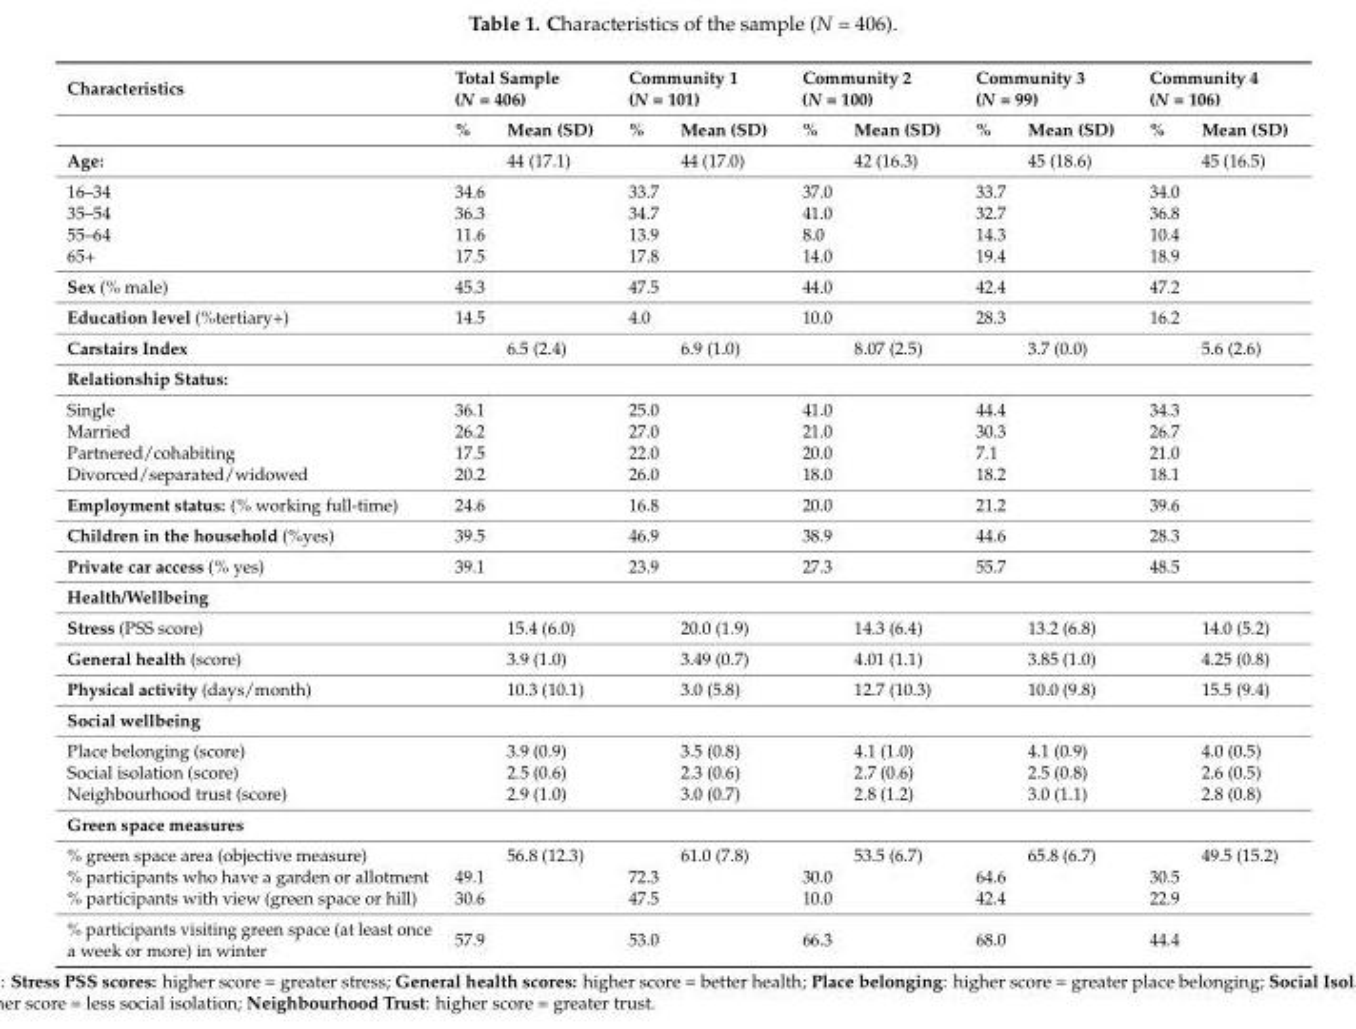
<table><thead><tr><td rowspan="2">Characteristics</td><td colspan="2">Total Sample (N = 406)</td><td colspan="2">Community 1 (N = 101)</td><td colspan="2">Community 2 (N = 100)</td><td colspan="2">Community 3 (N = 99)</td><td colspan="2">Community 4 (N = 106)</td></tr><tr><td>%</td><td>Mean (SD)</td><td>%</td><td>Mean (SD)</td><td>%</td><td>Mean (SD)</td><td>%</td><td>Mean (SD)</td><td>%</td><td>Mean (SD)</td></tr></thead><tbody><tr><td>Age:</td><td></td><td>44 (17.1)</td><td></td><td>44 (17.0)</td><td></td><td>42 (16.3)</td><td></td><td>45 (18.6)</td><td></td><td>45 (16.5)</td></tr><tr><td>16–34</td><td>34.6</td><td></td><td>33.7</td><td></td><td>37.0</td><td></td><td>33.7</td><td></td><td>34.0</td><td></td></tr><tr><td>35–54</td><td>36.3</td><td></td><td>34.7</td><td></td><td>41.0</td><td></td><td>32.7</td><td></td><td>36.8</td><td></td></tr><tr><td>55–64</td><td>11.6</td><td></td><td>13.9</td><td></td><td>8.0</td><td></td><td>14.3</td><td></td><td>10.4</td><td></td></tr><tr><td>65+</td><td>17.5</td><td></td><td>17.8</td><td></td><td>14.0</td><td></td><td>19.4</td><td></td><td>18.9</td><td></td></tr><tr><td>Sex (% male)</td><td>45.3</td><td></td><td>47.5</td><td></td><td>44.0</td><td></td><td>42.4</td><td></td><td>47.2</td><td></td></tr><tr><td>Education level (%tertiary+)</td><td>14.5</td><td></td><td>4.0</td><td></td><td>10.0</td><td></td><td>28.3</td><td></td><td>16.2</td><td></td></tr><tr><td>Carstairs Index</td><td></td><td>6.5 (2.4)</td><td></td><td>6.9 (1.0)</td><td></td><td>8.07 (2.5)</td><td></td><td>3.7 (0.0)</td><td></td><td>5.6 (2.6)</td></tr><tr><td colspan="11">Relationship Status:</td></tr><tr><td>Single</td><td>36.1</td><td></td><td>25.0</td><td></td><td>41.0</td><td></td><td>44.4</td><td></td><td>34.3</td><td></td></tr><tr><td>Married</td><td>26.2</td><td></td><td>27.0</td><td></td><td>21.0</td><td></td><td>30.3</td><td></td><td>26.7</td><td></td></tr><tr><td>Partnered/cohabiting</td><td>17.5</td><td></td><td>22.0</td><td></td><td>20.0</td><td></td><td>7.1</td><td></td><td>21.0</td><td></td></tr><tr><td>Divorced/separated/widowed</td><td>20.2</td><td></td><td>26.0</td><td></td><td>18.0</td><td></td><td>18.2</td><td></td><td>18.1</td><td></td></tr><tr><td>Employment status: (% working full-time)</td><td>24.6</td><td></td><td>16.8</td><td></td><td>20.0</td><td></td><td>21.2</td><td></td><td>39.6</td><td></td></tr><tr><td>Children in the household (%yes)</td><td>39.5</td><td></td><td>46.9</td><td></td><td>38.9</td><td></td><td>44.6</td><td></td><td>28.3</td><td></td></tr><tr><td>Private car access (% yes)</td><td>39.1</td><td></td><td>23.9</td><td></td><td>27.3</td><td></td><td>55.7</td><td></td><td>48.5</td><td></td></tr><tr><td colspan="11">Health/Wellbeing</td></tr><tr><td>Stress (PSS score)</td><td></td><td>15.4 (6.0)</td><td></td><td>20.0 (1.9)</td><td></td><td>14.3 (6.4)</td><td></td><td>13.2 (6.8)</td><td></td><td>14.0 (5.2)</td></tr><tr><td>General health (score)</td><td></td><td>3.9 (1.0)</td><td></td><td>3.49 (0.7)</td><td></td><td>4.01 (1.1)</td><td></td><td>3.85 (1.0)</td><td></td><td>4.25 (0.8)</td></tr><tr><td>Physical activity (days/month)</td><td></td><td>10.3 (10.1)</td><td></td><td>3.0 (5.8)</td><td></td><td>12.7 (10.3)</td><td></td><td>10.0 (9.8)</td><td></td><td>15.5 (9.4)</td></tr><tr><td colspan="11">Social wellbeing</td></tr><tr><td>Place belonging (score)</td><td></td><td>3.9 (0.9)</td><td></td><td>3.5 (0.8)</td><td></td><td>4.1 (1.0)</td><td></td><td>4.1 (0.9)</td><td></td><td>4.0 (0.5)</td></tr><tr><td>Social isolation (score)</td><td></td><td>2.5 (0.6)</td><td></td><td>2.3 (0.6)</td><td></td><td>2.7 (0.6)</td><td></td><td>2.5 (0.8)</td><td></td><td>2.6 (0.5)</td></tr><tr><td>Neighbourhood trust (score)</td><td></td><td>2.9 (1.0)</td><td></td><td>3.0 (0.7)</td><td></td><td>2.8 (1.2)</td><td></td><td>3.0 (1.1)</td><td></td><td>2.8 (0.8)</td></tr><tr><td colspan="11">Green space measures</td></tr><tr><td>% green space area (objective measure)</td><td></td><td>56.8 (12.3)</td><td></td><td>61.0 (7.8)</td><td></td><td>53.5 (6.7)</td><td></td><td>65.8 (6.7)</td><td></td><td>49.5 (15.2)</td></tr><tr><td>% participants who have a garden or allotment</td><td>49.1</td><td></td><td>72.3</td><td></td><td>30.0</td><td></td><td>64.6</td><td></td><td>30.5</td><td></td></tr><tr><td>% participants with view (green space or hill)</td><td>30.6</td><td></td><td>47.5</td><td></td><td>10.0</td><td></td><td>42.4</td><td></td><td>22.9</td><td></td></tr><tr><td>% participants visiting green space (at least once a week or more) in winter</td><td>57.9</td><td></td><td>53.0</td><td></td><td>66.3</td><td></td><td>68.0</td><td></td><td>44.4</td><td></td></tr></tbody></table>